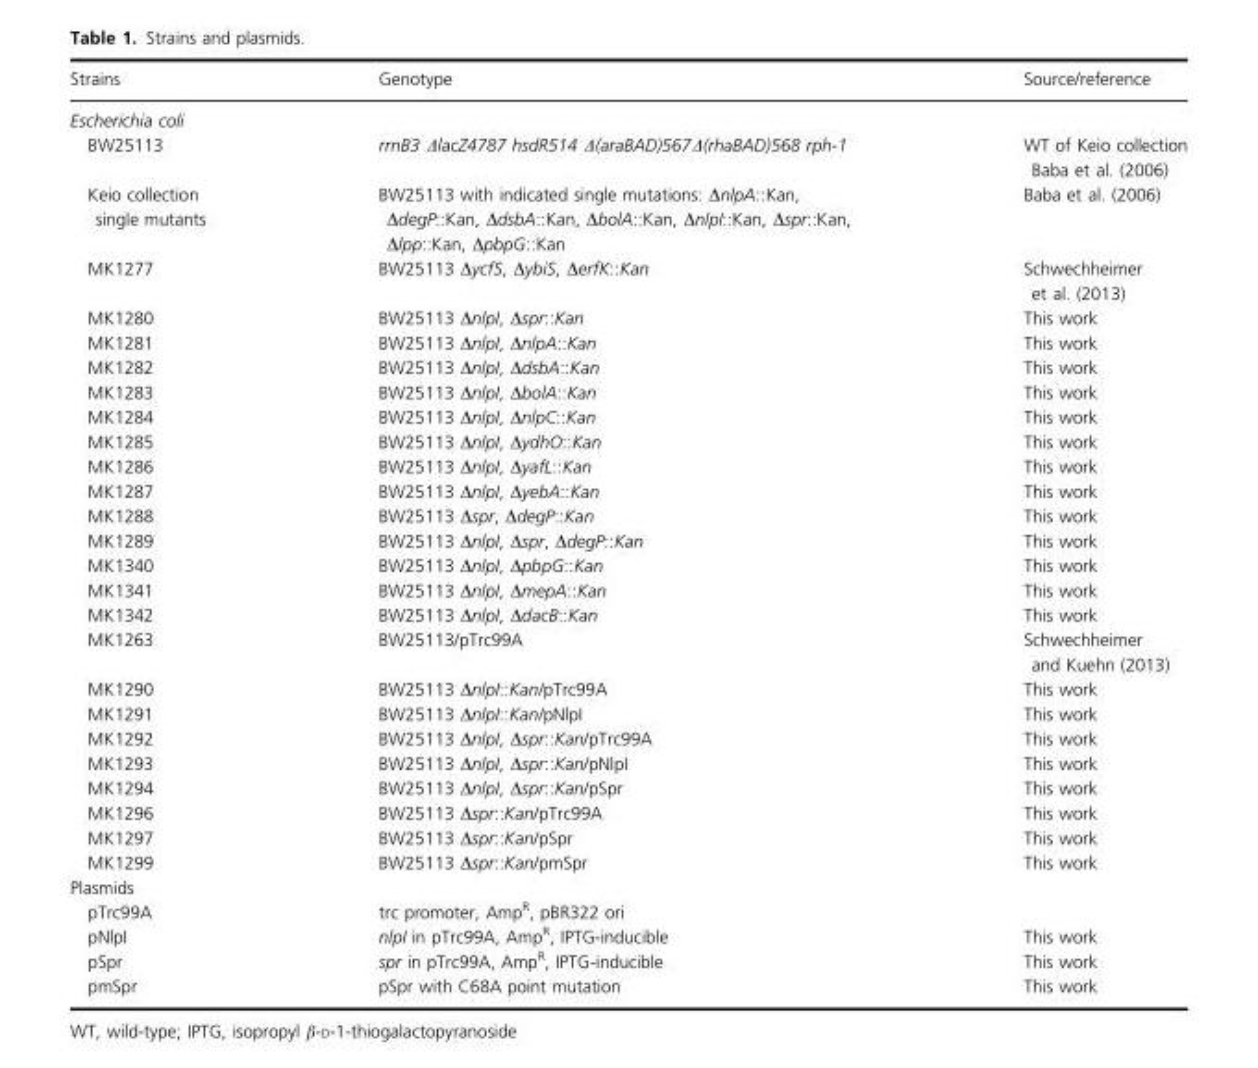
<table><thead><tr><td>Strains</td><td>Genotype</td><td>Source/reference</td></tr></thead><tbody><tr><td colspan="3">Escherichia coli</td></tr><tr><td>BW25113</td><td>rrnB3 ΔlacZ4787 hsdR514 Δ(araBAD)567Δ(rhaBAD)568 rph-1</td><td>WT of Keio collection Baba et al. (2006)</td></tr><tr><td>Keio collection single mutants</td><td>BW25113 with indicated single mutations: ΔnlpA::Kan, ΔdegP::Kan, ΔdsbA::Kan, ΔbolA::Kan, ΔnlpI::Kan, Δspr::Kan, Δlpp::Kan, ΔpbpG::Kan</td><td>Baba et al. (2006)</td></tr><tr><td>MK1277</td><td>BW25113 ΔycfS, ΔybiS, ΔerfK::Kan</td><td>Schwechheimer et al. (2013)</td></tr><tr><td>MK1280</td><td>BW25113 ΔnlpI, Δspr::Kan</td><td>This work</td></tr><tr><td>MK1281</td><td>BW25113 ΔnlpI, ΔnlpA::Kan</td><td>This work</td></tr><tr><td>MK1282</td><td>BW25113 ΔnlpI, ΔdsbA::Kan</td><td>This work</td></tr><tr><td>MK1283</td><td>BW25113 ΔnlpI, ΔbolA::Kan</td><td>This work</td></tr><tr><td>MK1284</td><td>BW25113 ΔnlpI, ΔnlpC::Kan</td><td>This work</td></tr><tr><td>MK1285</td><td>BW25113 ΔnlpI, ΔydhO::Kan</td><td>This work</td></tr><tr><td>MK1286</td><td>BW25113 ΔnlpI, ΔyafL::Kan</td><td>This work</td></tr><tr><td>MK1287</td><td>BW25113 ΔnlpI, ΔyebA::Kan</td><td>This work</td></tr><tr><td>MK1288</td><td>BW25113 Δspr, ΔdegP::Kan</td><td>This work</td></tr><tr><td>MK1289</td><td>BW25113 ΔnlpI, Δspr, ΔdegP::Kan</td><td>This work</td></tr><tr><td>MK1340</td><td>BW25113 ΔnlpI, ΔpbpG::Kan</td><td>This work</td></tr><tr><td>MK1341</td><td>BW25113 ΔnlpI, ΔmepA::Kan</td><td>This work</td></tr><tr><td>MK1342</td><td>BW25113 ΔnlpI, ΔdacB::Kan</td><td>This work</td></tr><tr><td>MK1263</td><td>BW25113/pTrc99A</td><td>Schwechheimer and Kuehn (2013)</td></tr><tr><td>MK1290</td><td>BW25113 ΔnlpI::Kan/pTrc99A</td><td>This work</td></tr><tr><td>MK1291</td><td>BW25113 ΔnlpI::Kan/pNlpI</td><td>This work</td></tr><tr><td>MK1292</td><td>BW25113 ΔnlpI, Δspr::Kan/pTrc99A</td><td>This work</td></tr><tr><td>MK1293</td><td>BW25113 ΔnlpI, Δspr::Kan/pNlpI</td><td>This work</td></tr><tr><td>MK1294</td><td>BW25113 ΔnlpI, Δspr::Kan/pSpr</td><td>This work</td></tr><tr><td>MK1296</td><td>BW25113 Δspr::Kan/pTrc99A</td><td>This work</td></tr><tr><td>MK1297</td><td>BW25113 Δspr::Kan/pSpr</td><td>This work</td></tr><tr><td>MK1299</td><td>BW25113 Δspr::Kan/pmSpr</td><td>This work</td></tr><tr><td colspan="3">Plasmids</td></tr><tr><td>pTrc99A</td><td>trc promoter, Amp<sup>R</sup>, pBR322 ori</td><td></td></tr><tr><td>pNlpI</td><td>nlpI in pTrc99A, Amp<sup>R</sup>, IPTG-inducible</td><td>This work</td></tr><tr><td>pSpr</td><td>spr in pTrc99A, Amp<sup>R</sup>, IPTG-inducible</td><td>This work</td></tr><tr><td>pmSpr</td><td>pSpr with C68A point mutation</td><td>This work</td></tr></tbody></table>